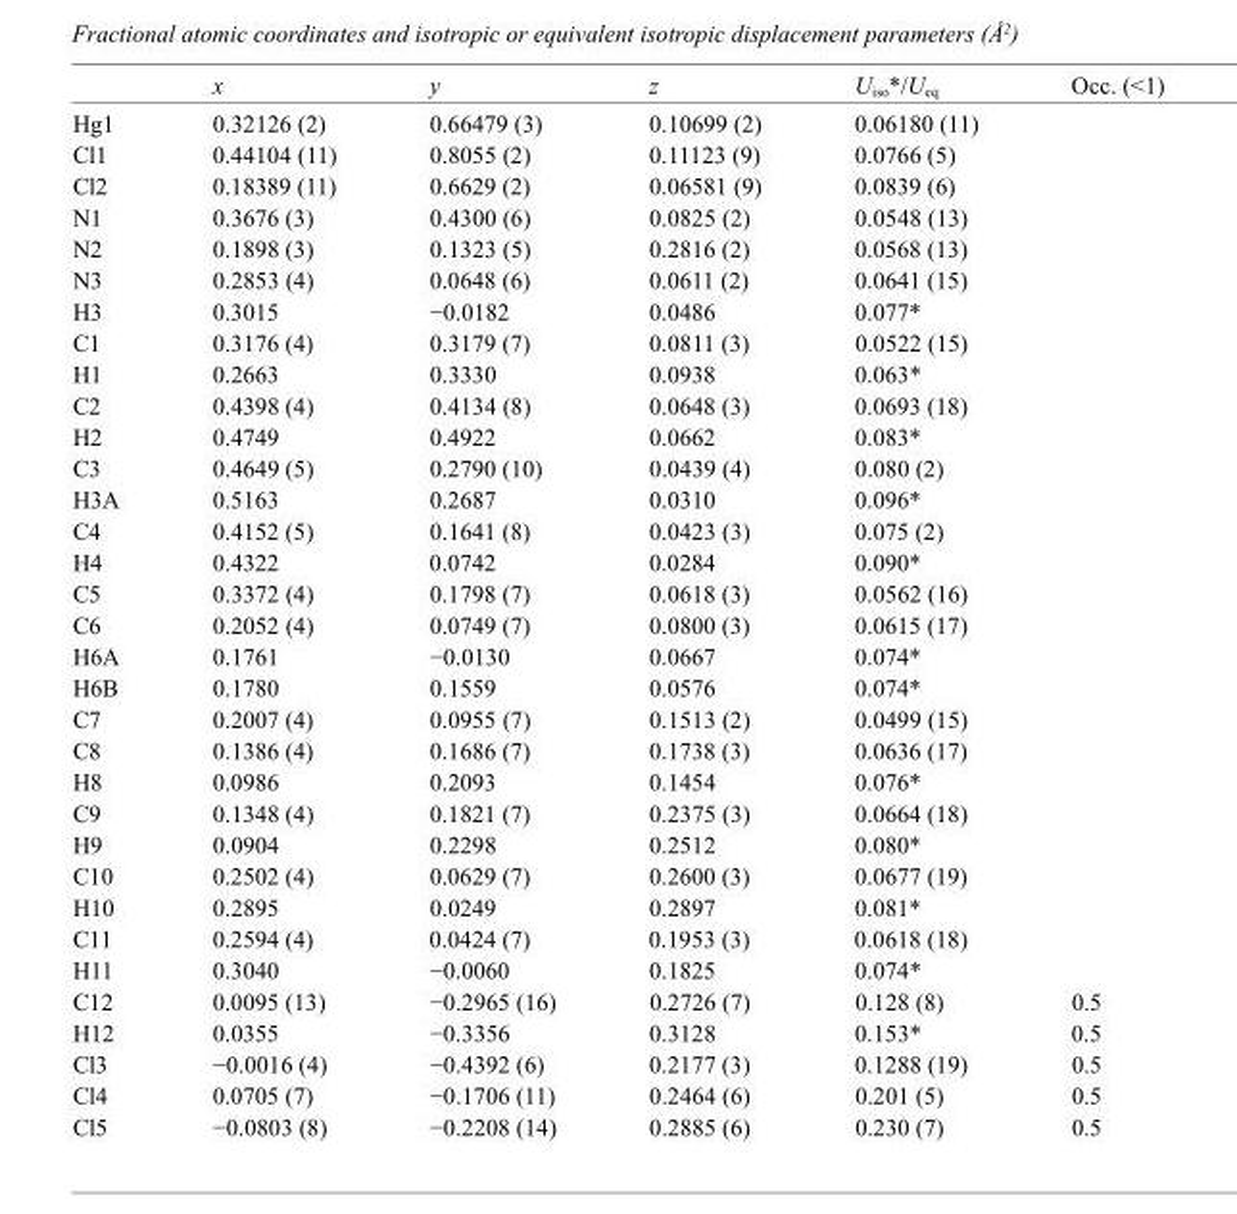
<table><thead><tr><td></td><td>x</td><td>y</td><td>z</td><td>U<sub>iso</sub>*/U<sub>eq</sub></td><td>Occ. (&lt;1)</td></tr></thead><tbody><tr><td>Hg1</td><td>0.32126 (2)</td><td>0.66479 (3)</td><td>0.10699 (2)</td><td>0.06180 (11)</td><td></td></tr><tr><td>Cl1</td><td>0.44104 (11)</td><td>0.8055 (2)</td><td>0.11123 (9)</td><td>0.0766 (5)</td><td></td></tr><tr><td>Cl2</td><td>0.18389 (11)</td><td>0.6629 (2)</td><td>0.06581 (9)</td><td>0.0839 (6)</td><td></td></tr><tr><td>N1</td><td>0.3676 (3)</td><td>0.4300 (6)</td><td>0.0825 (2)</td><td>0.0548 (13)</td><td></td></tr><tr><td>N2</td><td>0.1898 (3)</td><td>0.1323 (5)</td><td>0.2816 (2)</td><td>0.0568 (13)</td><td></td></tr><tr><td>N3</td><td>0.2853 (4)</td><td>0.0648 (6)</td><td>0.0611 (2)</td><td>0.0641 (15)</td><td></td></tr><tr><td>H3</td><td>0.3015</td><td>−0.0182</td><td>0.0486</td><td>0.077*</td><td></td></tr><tr><td>C1</td><td>0.3176 (4)</td><td>0.3179 (7)</td><td>0.0811 (3)</td><td>0.0522 (15)</td><td></td></tr><tr><td>H1</td><td>0.2663</td><td>0.3330</td><td>0.0938</td><td>0.063*</td><td></td></tr><tr><td>C2</td><td>0.4398 (4)</td><td>0.4134 (8)</td><td>0.0648 (3)</td><td>0.0693 (18)</td><td></td></tr><tr><td>H2</td><td>0.4749</td><td>0.4922</td><td>0.0662</td><td>0.083*</td><td></td></tr><tr><td>C3</td><td>0.4649 (5)</td><td>0.2790 (10)</td><td>0.0439 (4)</td><td>0.080 (2)</td><td></td></tr><tr><td>H3A</td><td>0.5163</td><td>0.2687</td><td>0.0310</td><td>0.096*</td><td></td></tr><tr><td>C4</td><td>0.4152 (5)</td><td>0.1641 (8)</td><td>0.0423 (3)</td><td>0.075 (2)</td><td></td></tr><tr><td>H4</td><td>0.4322</td><td>0.0742</td><td>0.0284</td><td>0.090*</td><td></td></tr><tr><td>C5</td><td>0.3372 (4)</td><td>0.1798 (7)</td><td>0.0618 (3)</td><td>0.0562 (16)</td><td></td></tr><tr><td>C6</td><td>0.2052 (4)</td><td>0.0749 (7)</td><td>0.0800 (3)</td><td>0.0615 (17)</td><td></td></tr><tr><td>H6A</td><td>0.1761</td><td>−0.0130</td><td>0.0667</td><td>0.074*</td><td></td></tr><tr><td>H6B</td><td>0.1780</td><td>0.1559</td><td>0.0576</td><td>0.074*</td><td></td></tr><tr><td>C7</td><td>0.2007 (4)</td><td>0.0955 (7)</td><td>0.1513 (2)</td><td>0.0499 (15)</td><td></td></tr><tr><td>C8</td><td>0.1386 (4)</td><td>0.1686 (7)</td><td>0.1738 (3)</td><td>0.0636 (17)</td><td></td></tr><tr><td>H8</td><td>0.0986</td><td>0.2093</td><td>0.1454</td><td>0.076*</td><td></td></tr><tr><td>C9</td><td>0.1348 (4)</td><td>0.1821 (7)</td><td>0.2375 (3)</td><td>0.0664 (18)</td><td></td></tr><tr><td>H9</td><td>0.0904</td><td>0.2298</td><td>0.2512</td><td>0.080*</td><td></td></tr><tr><td>C10</td><td>0.2502 (4)</td><td>0.0629 (7)</td><td>0.2600 (3)</td><td>0.0677 (19)</td><td></td></tr><tr><td>H10</td><td>0.2895</td><td>0.0249</td><td>0.2897</td><td>0.081*</td><td></td></tr><tr><td>C11</td><td>0.2594 (4)</td><td>0.0424 (7)</td><td>0.1953 (3)</td><td>0.0618 (18)</td><td></td></tr><tr><td>H11</td><td>0.3040</td><td>−0.0060</td><td>0.1825</td><td>0.074*</td><td></td></tr><tr><td>C12</td><td>0.0095 (13)</td><td>−0.2965 (16)</td><td>0.2726 (7)</td><td>0.128 (8)</td><td>0.5</td></tr><tr><td>H12</td><td>0.0355</td><td>−0.3356</td><td>0.3128</td><td>0.153*</td><td>0.5</td></tr><tr><td>Cl3</td><td>−0.0016 (4)</td><td>−0.4392 (6)</td><td>0.2177 (3)</td><td>0.1288 (19)</td><td>0.5</td></tr><tr><td>Cl4</td><td>0.0705 (7)</td><td>−0.1706 (11)</td><td>0.2464 (6)</td><td>0.201 (5)</td><td>0.5</td></tr><tr><td>Cl5</td><td>−0.0803 (8)</td><td>−0.2208 (14)</td><td>0.2885 (6)</td><td>0.230 (7)</td><td>0.5</td></tr></tbody></table>